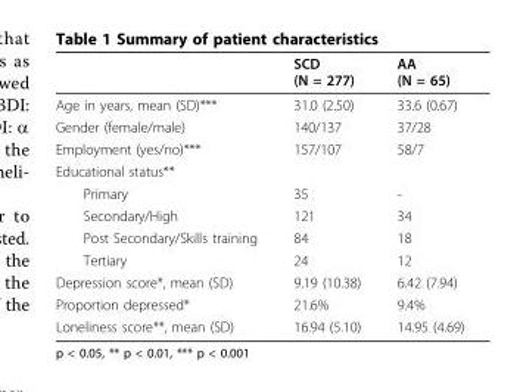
<table><thead><tr><td></td><td>SCD (N = 277)</td><td>AA (N = 65)</td></tr></thead><tbody><tr><td>Age in years, mean (SD)***</td><td>31.0 (2.50)</td><td>33.6 (0.67)</td></tr><tr><td>Gender (female/male)</td><td>140/137</td><td>37/28</td></tr><tr><td>Employment (yes/no)***</td><td>157/107</td><td>58/7</td></tr><tr><td colspan="3">Educational status**</td></tr><tr><td>Primary</td><td>35</td><td>-</td></tr><tr><td>Secondary/High</td><td>121</td><td>34</td></tr><tr><td>Post Secondary/Skills training</td><td>84</td><td>18</td></tr><tr><td>Tertiary</td><td>24</td><td>12</td></tr><tr><td>Depression score*, mean (SD)</td><td>9.19 (10.38)</td><td>6.42 (7.94)</td></tr><tr><td>Proportion depressed*</td><td>21.6%</td><td>9.4%</td></tr><tr><td>Loneliness score**, mean (SD)</td><td>16.94 (5.10)</td><td>14.95 (4.69)</td></tr></tbody></table>